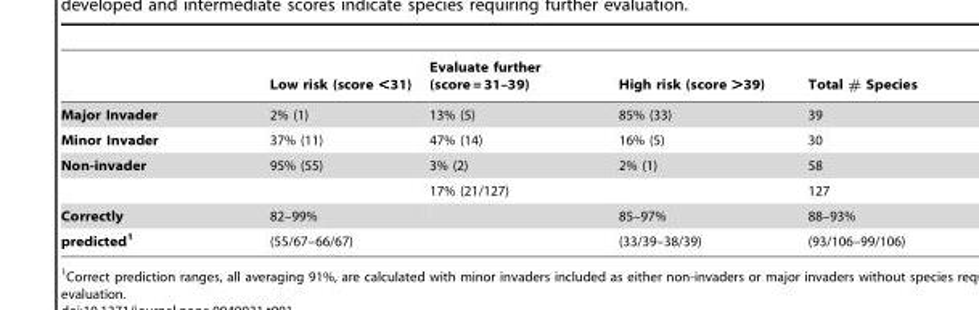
<table><thead><tr><td></td><td>Low risk (score &lt;31)</td><td>Evaluate further (score = 31–39)</td><td>High risk (score &gt;39)</td><td>Total # Species</td></tr></thead><tbody><tr><td>Major Invader</td><td>2% (1)</td><td>13% (5)</td><td>85% (33)</td><td>39</td></tr><tr><td>Minor Invader</td><td>37% (11)</td><td>47% (14)</td><td>16% (5)</td><td>30</td></tr><tr><td rowspan="2">Non-invader</td><td>95% (55)</td><td>3% (2)</td><td>2% (1)</td><td>58</td></tr><tr><td></td><td>17% (21/127)</td><td></td><td>127</td></tr><tr><td>Correctly</td><td>82–99%</td><td></td><td>85–97%</td><td>88–93%</td></tr><tr><td>predicted1</td><td>(55/67–66/67)</td><td></td><td>(33/39–38/39)</td><td>(93/106–99/106)</td></tr></tbody></table>